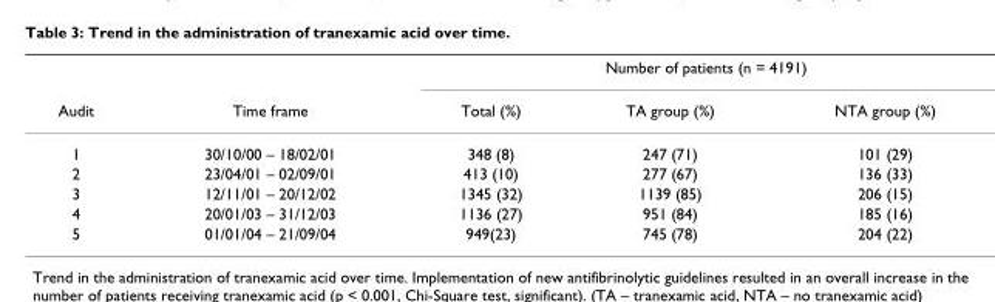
<table><thead><tr><td rowspan="2">Audit</td><td rowspan="2">Time frame</td><td colspan="3">Number of patients (n = 4191)</td></tr><tr><td>Total (%)</td><td>TA group (%)</td><td>NTA group (%)</td></tr></thead><tbody><tr><td>1</td><td>30/10/00 – 18/02/01</td><td>348 (8)</td><td>247 (71)</td><td>101 (29)</td></tr><tr><td>2</td><td>23/04/01 – 02/09/01</td><td>413 (10)</td><td>277 (67)</td><td>136 (33)</td></tr><tr><td>3</td><td>12/11/01 – 20/12/02</td><td>1345 (32)</td><td>1139 (85)</td><td>206 (15)</td></tr><tr><td>4</td><td>20/01/03 – 31/12/03</td><td>1136 (27)</td><td>951 (84)</td><td>185 (16)</td></tr><tr><td>5</td><td>01/01/04 – 21/09/04</td><td>949(23)</td><td>745 (78)</td><td>204 (22)</td></tr></tbody></table>